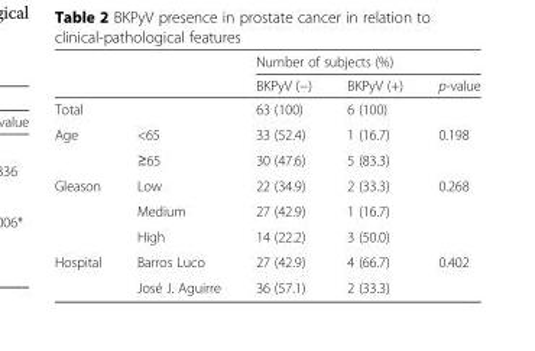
<table><thead><tr><td rowspan="2"></td><td rowspan="2"></td><td colspan="3">Number of subjects (%)</td></tr><tr><td>BKPyV (−)</td><td>BKPyV (+)</td><td>p-value</td></tr></thead><tbody><tr><td>Total</td><td></td><td>63 (100)</td><td>6 (100)</td><td></td></tr><tr><td rowspan="2">Age</td><td>&lt;65</td><td>33 (52.4)</td><td>1 (16.7)</td><td>0.198</td></tr><tr><td>≥65</td><td>30 (47.6)</td><td>5 (83.3)</td><td></td></tr><tr><td rowspan="3">Gleason</td><td>Low</td><td>22 (34.9)</td><td>2 (33.3)</td><td>0.268</td></tr><tr><td>Medium</td><td>27 (42.9)</td><td>1 (16.7)</td><td></td></tr><tr><td>High</td><td>14 (22.2)</td><td>3 (50.0)</td><td></td></tr><tr><td rowspan="2">Hospital</td><td>Barros Luco</td><td>27 (42.9)</td><td>4 (66.7)</td><td>0.402</td></tr><tr><td>José J. Aguirre</td><td>36 (57.1)</td><td>2 (33.3)</td><td></td></tr></tbody></table>